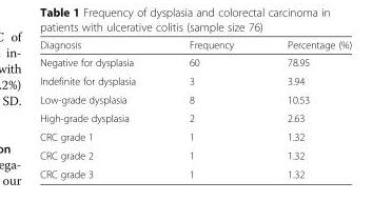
<table><thead><tr><td>Diagnosis</td><td>Frequency</td><td>Percentage (%)</td></tr></thead><tbody><tr><td>Negative for dysplasia</td><td>60</td><td>78.95</td></tr><tr><td>Indefinite for dysplasia</td><td>3</td><td>3.94</td></tr><tr><td>Low-grade dysplasia</td><td>8</td><td>10.53</td></tr><tr><td>High-grade dysplasia</td><td>2</td><td>2.63</td></tr><tr><td>CRC grade 1</td><td>1</td><td>1.32</td></tr><tr><td>CRC grade 2</td><td>1</td><td>1.32</td></tr><tr><td>CRC grade 3</td><td>1</td><td>1.32</td></tr></tbody></table>